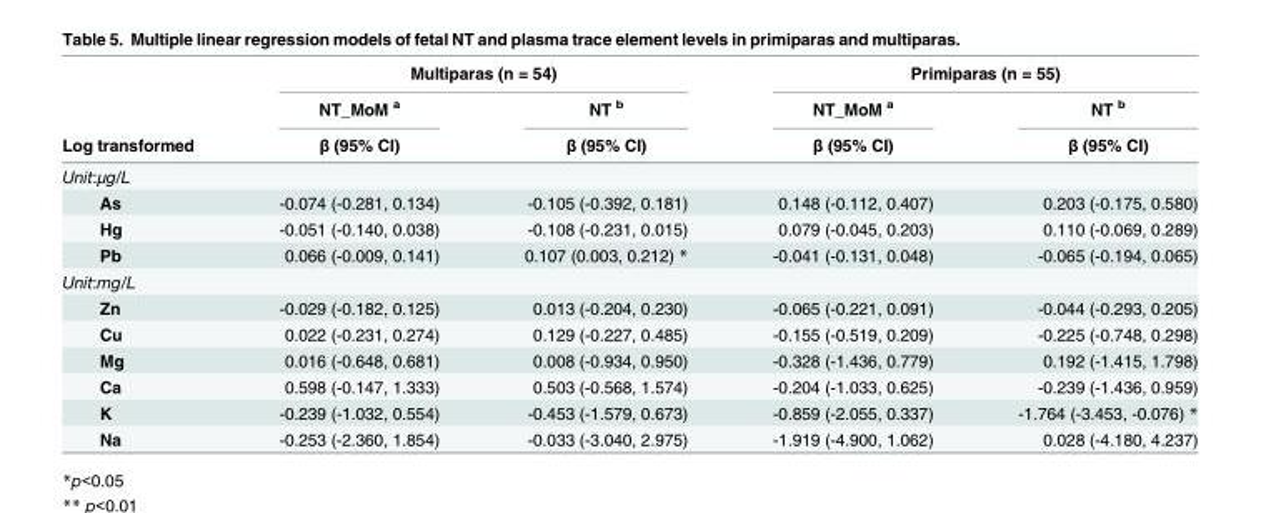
<table><thead><tr><td rowspan="3">Log transformed</td><td colspan="2">Multiparas (n = 54)</td><td colspan="2">Primiparas (n = 55)</td></tr><tr><td rowspan="2">NT_MoM <sup>a</sup> β (95% CI)</td><td rowspan="2">NT <sup>b</sup> β (95% CI)</td><td rowspan="2">NT_MoM <sup>a</sup> β (95% CI)</td><td rowspan="2">NT <sup>b</sup> β (95% CI)</td></tr><tr></tr></thead><tbody><tr><td colspan="5">Unit:μg/L</td></tr><tr><td>As</td><td>-0.074 (-0.281, 0.134)</td><td>-0.105 (-0.392, 0.181)</td><td>0.148 (-0.112, 0.407)</td><td>0.203 (-0.175, 0.580)</td></tr><tr><td>Hg</td><td>-0.051 (-0.140, 0.038)</td><td>-0.108 (-0.231, 0.015)</td><td>0.079 (-0.045, 0.203)</td><td>0.110 (-0.069, 0.289)</td></tr><tr><td>Pb</td><td>0.066 (-0.009, 0.141)</td><td>0.107 (0.003, 0.212) *</td><td>-0.041 (-0.131, 0.048)</td><td>-0.065 (-0.194, 0.065)</td></tr><tr><td colspan="5">Unit:mg/L</td></tr><tr><td>Zn</td><td>-0.029 (-0.182, 0.125)</td><td>0.013 (-0.204, 0.230)</td><td>-0.065 (-0.221, 0.091)</td><td>-0.044 (-0.293, 0.205)</td></tr><tr><td>Cu</td><td>0.022 (-0.231, 0.274)</td><td>0.129 (-0.227, 0.485)</td><td>-0.155 (-0.519, 0.209)</td><td>-0.225 (-0.748, 0.298)</td></tr><tr><td>Mg</td><td>0.016 (-0.648, 0.681)</td><td>0.008 (-0.934, 0.950)</td><td>-0.328 (-1.436, 0.779)</td><td>0.192 (-1.415, 1.798)</td></tr><tr><td>Ca</td><td>0.598 (-0.147, 1.333)</td><td>0.503 (-0.568, 1.574)</td><td>-0.204 (-1.033, 0.625)</td><td>-0.239 (-1.436, 0.959)</td></tr><tr><td>K</td><td>-0.239 (-1.032, 0.554)</td><td>-0.453 (-1.579, 0.673)</td><td>-0.859 (-2.055, 0.337)</td><td>-1.764 (-3.453, -0.076) *</td></tr><tr><td>Na</td><td>-0.253 (-2.360, 1.854)</td><td>-0.033 (-3.040, 2.975)</td><td>-1.919 (-4.900, 1.062)</td><td>0.028 (-4.180, 4.237)</td></tr></tbody></table>